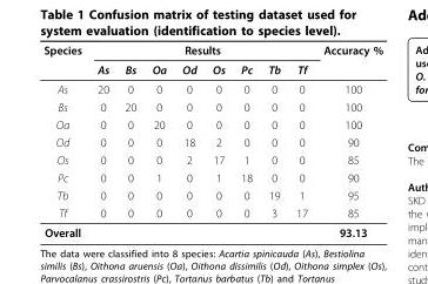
<table><thead><tr><td rowspan="2">Species</td><td colspan="8">Results</td><td rowspan="2">Accuracy %</td></tr><tr><td>As</td><td>Bs</td><td>Oa</td><td>Od</td><td>Os</td><td>Pc</td><td>Tb</td><td>Tf</td></tr></thead><tbody><tr><td>As</td><td>20</td><td>0</td><td>0</td><td>0</td><td>0</td><td>0</td><td>0</td><td>0</td><td>100</td></tr><tr><td>Bs</td><td>0</td><td>20</td><td>0</td><td>0</td><td>0</td><td>0</td><td>0</td><td>0</td><td>100</td></tr><tr><td>Oa</td><td>0</td><td>0</td><td>20</td><td>0</td><td>0</td><td>0</td><td>0</td><td>0</td><td>100</td></tr><tr><td>Od</td><td>0</td><td>0</td><td>0</td><td>18</td><td>2</td><td>0</td><td>0</td><td>0</td><td>90</td></tr><tr><td>Os</td><td>0</td><td>0</td><td>0</td><td>2</td><td>17</td><td>1</td><td>0</td><td>0</td><td>85</td></tr><tr><td>Pc</td><td>0</td><td>0</td><td>1</td><td>0</td><td>1</td><td>18</td><td>0</td><td>0</td><td>90</td></tr><tr><td>Tb</td><td>0</td><td>0</td><td>0</td><td>0</td><td>0</td><td>0</td><td>19</td><td>1</td><td>95</td></tr><tr><td>Tf</td><td>0</td><td>0</td><td>0</td><td>0</td><td>0</td><td>0</td><td>3</td><td>17</td><td>85</td></tr><tr><td>Overall</td><td></td><td></td><td></td><td></td><td></td><td></td><td></td><td></td><td>93.13</td></tr></tbody></table>